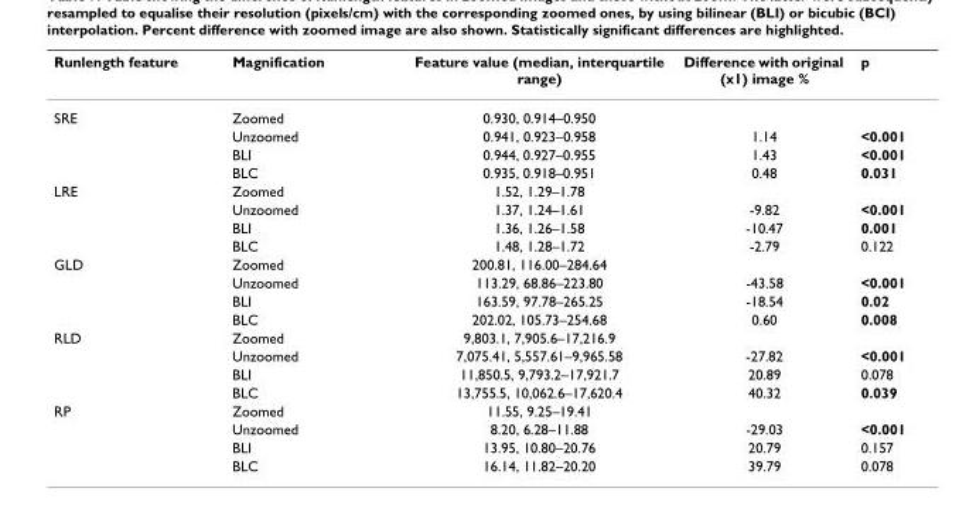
<table><thead><tr><td>Runlength feature</td><td>Magnification</td><td>Feature value (median, interquartile range)</td><td>Difference with original (x1) image %</td><td>p</td></tr></thead><tbody><tr><td rowspan="4">SRE</td><td>Zoomed</td><td>0.930, 0.914–0.950</td><td></td><td></td></tr><tr><td>Unzoomed</td><td>0.941, 0.923–0.958</td><td>1.14</td><td>&lt;0.001</td></tr><tr><td>BLI</td><td>0.944, 0.927–0.955</td><td>1.43</td><td>&lt;0.001</td></tr><tr><td>BLC</td><td>0.935, 0.918–0.951</td><td>0.48</td><td>0.031</td></tr><tr><td rowspan="4">LRE</td><td>Zoomed</td><td>1.52, 1.29–1.78</td><td></td><td></td></tr><tr><td>Unzoomed</td><td>1.37, 1.24–1.61</td><td>-9.82</td><td>&lt;0.001</td></tr><tr><td>BLI</td><td>1.36, 1.26–1.58</td><td>-10.47</td><td>0.001</td></tr><tr><td>BLC</td><td>1.48, 1.28–1.72</td><td>-2.79</td><td>0.122</td></tr><tr><td rowspan="4">GLD</td><td>Zoomed</td><td>200.81, 116.00–284.64</td><td></td><td></td></tr><tr><td>Unzoomed</td><td>113.29, 68.86–223.80</td><td>-43.58</td><td>&lt;0.001</td></tr><tr><td>BLI</td><td>163.59, 97.78–265.25</td><td>-18.54</td><td>0.02</td></tr><tr><td>BLC</td><td>202.02, 105.73–254.68</td><td>0.60</td><td>0.008</td></tr><tr><td rowspan="4">RLD</td><td>Zoomed</td><td>9,803.1, 7,905.6–17,216.9</td><td></td><td></td></tr><tr><td>Unzoomed</td><td>7,075.41, 5,557.61–9,965.58</td><td>-27.82</td><td>&lt;0.001</td></tr><tr><td>BLI</td><td>11,850.5, 9,793.2–17,921.7</td><td>20.89</td><td>0.078</td></tr><tr><td>BLC</td><td>13,755.5, 10,062.6–17,620.4</td><td>40.32</td><td>0.039</td></tr><tr><td rowspan="4">RP</td><td>Zoomed</td><td>11.55, 9.25–19.41</td><td></td><td></td></tr><tr><td>Unzoomed</td><td>8.20, 6.28–11.88</td><td>-29.03</td><td>&lt;0.001</td></tr><tr><td>BLI</td><td>13.95, 10.80–20.76</td><td>20.79</td><td>0.157</td></tr><tr><td>BLC</td><td>16.14, 11.82–20.20</td><td>39.79</td><td>0.078</td></tr></tbody></table>